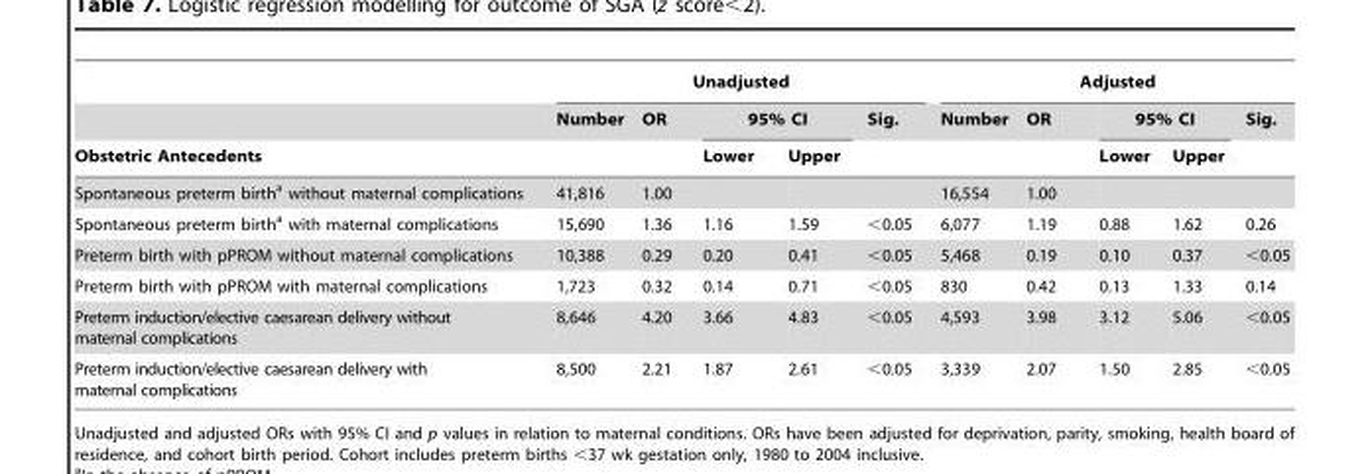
<table><thead><tr><td rowspan="3">Obstetric Antecedents</td><td colspan="5">Unadjusted</td><td colspan="5">Adjusted</td></tr><tr><td rowspan="2">Number</td><td rowspan="2">OR</td><td colspan="2">95% CI</td><td rowspan="2">Sig.</td><td rowspan="2">Number</td><td rowspan="2">OR</td><td colspan="2">95% CI</td><td rowspan="2">Sig.</td></tr><tr><td>Lower</td><td>Upper</td><td>Lower</td><td>Upper</td></tr></thead><tbody><tr><td>Spontaneous preterm birth<sup>a</sup> without maternal complications</td><td>41,816</td><td>1.00</td><td></td><td></td><td></td><td>16,554</td><td>1.00</td><td></td><td></td><td></td></tr><tr><td>Spontaneous preterm birth<sup>a</sup> with maternal complications</td><td>15,690</td><td>1.36</td><td>1.16</td><td>1.59</td><td>&lt;0.05</td><td>6,077</td><td>1.19</td><td>0.88</td><td>1.62</td><td>0.26</td></tr><tr><td>Preterm birth with pPROM without maternal complications</td><td>10,388</td><td>0.29</td><td>0.20</td><td>0.41</td><td>&lt;0.05</td><td>5,468</td><td>0.19</td><td>0.10</td><td>0.37</td><td>&lt;0.05</td></tr><tr><td>Preterm birth with pPROM with maternal complications</td><td>1,723</td><td>0.32</td><td>0.14</td><td>0.71</td><td>&lt;0.05</td><td>830</td><td>0.42</td><td>0.13</td><td>1.33</td><td>0.14</td></tr><tr><td>Preterm induction/elective caesarean delivery without maternal complications</td><td>8,646</td><td>4.20</td><td>3.66</td><td>4.83</td><td>&lt;0.05</td><td>4,593</td><td>3.98</td><td>3.12</td><td>5.06</td><td>&lt;0.05</td></tr><tr><td>Preterm induction/elective caesarean delivery with maternal complications</td><td>8,500</td><td>2.21</td><td>1.87</td><td>2.61</td><td>&lt;0.05</td><td>3,339</td><td>2.07</td><td>1.50</td><td>2.85</td><td>&lt;0.05</td></tr></tbody></table>